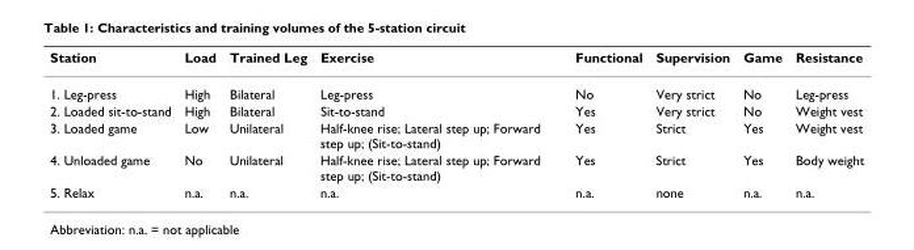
<table><thead><tr><td>Station</td><td>Load</td><td>Trained Leg</td><td>Exercise</td><td>Functional</td><td>Supervision</td><td>Game</td><td>Resistance</td></tr></thead><tbody><tr><td>1. Leg-press</td><td>High</td><td>Bilateral</td><td>Leg-press</td><td>No</td><td>Very strict</td><td>No</td><td>Leg-press</td></tr><tr><td>2. Loaded sit-to-stand</td><td>High</td><td>Bilateral</td><td>Sit-to-stand</td><td>Yes</td><td>Very strict</td><td>No</td><td>Weight vest</td></tr><tr><td>3. Loaded game</td><td>Low</td><td>Unilateral</td><td>Half-knee rise; Lateral step up; Forward step up; (Sit-to-stand)</td><td>Yes</td><td>Strict</td><td>Yes</td><td>Weight vest</td></tr><tr><td>4. Unloaded game</td><td>No</td><td>Unilateral</td><td>Half-knee rise; Lateral step up; Forward step up; (Sit-to-stand)</td><td>Yes</td><td>Strict</td><td>Yes</td><td>Body weight</td></tr><tr><td>5. Relax</td><td>n.a.</td><td>n.a.</td><td>n.a.</td><td>n.a.</td><td>none</td><td>n.a.</td><td>n.a.</td></tr></tbody></table>